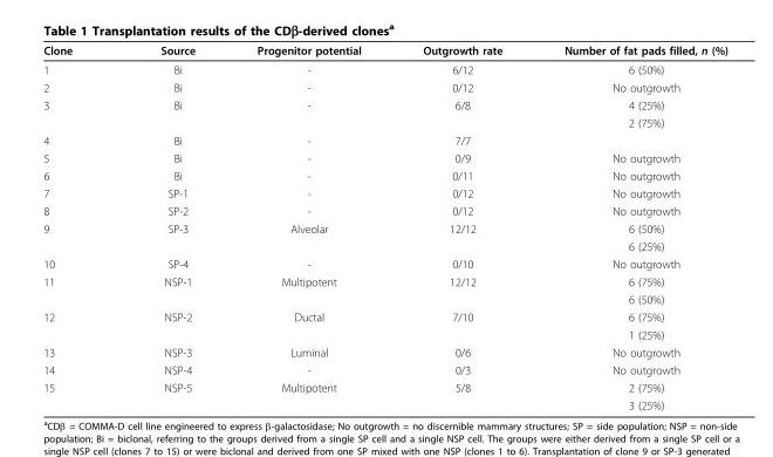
<table><thead><tr><td>Clone</td><td>Source</td><td>Progenitor potential</td><td>Outgrowth rate</td><td>Number of fat pads filled, n (%)</td></tr></thead><tbody><tr><td>1</td><td>Bi</td><td>-</td><td>6/12</td><td>6 (50%)</td></tr><tr><td>2</td><td>Bi</td><td>-</td><td>0/12</td><td>No outgrowth</td></tr><tr><td rowspan="2">3</td><td>Bi</td><td>-</td><td>6/8</td><td>4 (25%)</td></tr><tr><td></td><td></td><td></td><td>2 (75%)</td></tr><tr><td>4</td><td>Bi</td><td>-</td><td>7/7</td><td></td></tr><tr><td>5</td><td>Bi</td><td>-</td><td>0/9</td><td>No outgrowth</td></tr><tr><td>6</td><td>Bi</td><td>-</td><td>0/11</td><td>No outgrowth</td></tr><tr><td>7</td><td>SP-1</td><td>-</td><td>0/12</td><td>No outgrowth</td></tr><tr><td>8</td><td>SP-2</td><td>-</td><td>0/12</td><td>No outgrowth</td></tr><tr><td rowspan="2">9</td><td>SP-3</td><td>Alveolar</td><td>12/12</td><td>6 (50%)</td></tr><tr><td></td><td></td><td></td><td>6 (25%)</td></tr><tr><td>10</td><td>SP-4</td><td>-</td><td>0/10</td><td>No outgrowth</td></tr><tr><td rowspan="2">11</td><td>NSP-1</td><td>Multipotent</td><td>12/12</td><td>6 (75%)</td></tr><tr><td></td><td></td><td></td><td>6 (50%)</td></tr><tr><td rowspan="2">12</td><td>NSP-2</td><td>Ductal</td><td>7/10</td><td>6 (75%)</td></tr><tr><td></td><td></td><td></td><td>1 (25%)</td></tr><tr><td>13</td><td>NSP-3</td><td>Luminal</td><td>0/6</td><td>No outgrowth</td></tr><tr><td>14</td><td>NSP-4</td><td>-</td><td>0/3</td><td>No outgrowth</td></tr><tr><td rowspan="2">15</td><td>NSP-5</td><td>Multipotent</td><td>5/8</td><td>2 (75%)</td></tr><tr><td></td><td></td><td></td><td>3 (25%)</td></tr></tbody></table>